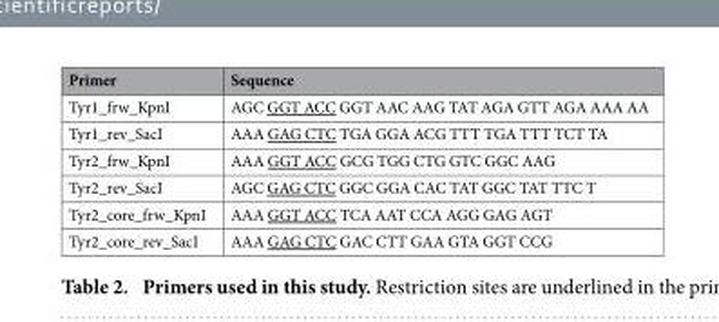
<table><thead><tr><td>Primer</td><td>Sequence</td></tr></thead><tbody><tr><td>Tyr1_frw_KpnI</td><td>AGC GGT ACC GGT AAC AAG TAT AGA GTT AGA AAA AA</td></tr><tr><td>Tyr1_rev_SacI</td><td>AAA GAG CTC TGA GGA ACG TTT TGA TTT TCT TA</td></tr><tr><td>Tyr2_frw_KpnI</td><td>AAA GGT ACC GCG TGG CTG GTC GGC AAG</td></tr><tr><td>Tyr2_rev_SacI</td><td>AGC GAG CTC GGC GGA CAC TAT GGC TAT TTC T</td></tr><tr><td>Tyr2_core_frw_KpnI</td><td>AAA GGT ACC TCA AAT CCA AGG GAG AGT</td></tr><tr><td>Tyr2_core_rev_SacI</td><td>AAA GAG CTC GAC CTT GAA GTA GGT CCG</td></tr></tbody></table>